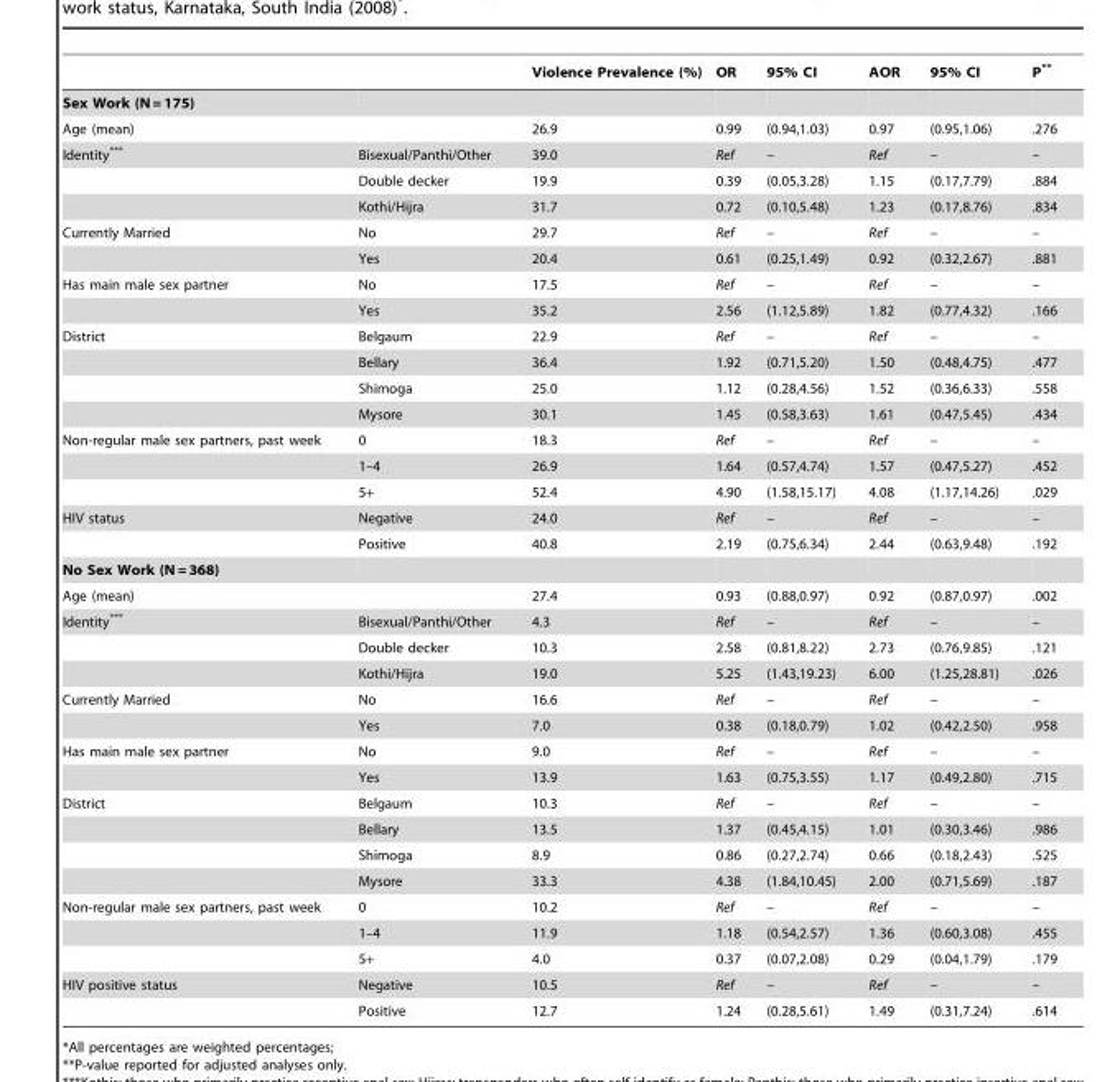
<table><thead><tr><td></td><td></td><td>Violence Prevalence (%)</td><td>OR</td><td>95% CI</td><td>AOR</td><td>95% CI</td><td>P**</td></tr></thead><tbody><tr><td colspan="8">Sex Work (N = 175)</td></tr><tr><td>Age (mean)</td><td></td><td>26.9</td><td>0.99</td><td>(0.94,1.03)</td><td>0.97</td><td>(0.95,1.06)</td><td>.276</td></tr><tr><td rowspan="3">Identity***</td><td>Bisexual/Panthi/Other</td><td>39.0</td><td>Ref</td><td>–</td><td>Ref</td><td>–</td><td>–</td></tr><tr><td>Double decker</td><td>19.9</td><td>0.39</td><td>(0.05,3.28)</td><td>1.15</td><td>(0.17,7.79)</td><td>.884</td></tr><tr><td>Kothi/Hijra</td><td>31.7</td><td>0.72</td><td>(0.10,5.48)</td><td>1.23</td><td>(0.17,8.76)</td><td>.834</td></tr><tr><td rowspan="2">Currently Married</td><td>No</td><td>29.7</td><td>Ref</td><td>–</td><td>Ref</td><td>–</td><td>–</td></tr><tr><td>Yes</td><td>20.4</td><td>0.61</td><td>(0.25,1.49)</td><td>0.92</td><td>(0.32,2.67)</td><td>.881</td></tr><tr><td rowspan="2">Has main male sex partner</td><td>No</td><td>17.5</td><td>Ref</td><td>–</td><td>Ref</td><td>–</td><td>–</td></tr><tr><td>Yes</td><td>35.2</td><td>2.56</td><td>(1.12,5.89)</td><td>1.82</td><td>(0.77,4.32)</td><td>.166</td></tr><tr><td rowspan="4">District</td><td>Belgaum</td><td>22.9</td><td>Ref</td><td>–</td><td>Ref</td><td>–</td><td>–</td></tr><tr><td>Bellary</td><td>36.4</td><td>1.92</td><td>(0.71,5.20)</td><td>1.50</td><td>(0.48,4.75)</td><td>.477</td></tr><tr><td>Shimoga</td><td>25.0</td><td>1.12</td><td>(0.28,4.56)</td><td>1.52</td><td>(0.36,6.33)</td><td>.558</td></tr><tr><td>Mysore</td><td>30.1</td><td>1.45</td><td>(0.58,3.63)</td><td>1.61</td><td>(0.47,5.45)</td><td>.434</td></tr><tr><td rowspan="3">Non-regular male sex partners, past week</td><td>0</td><td>18.3</td><td>Ref</td><td>–</td><td>Ref</td><td>–</td><td>–</td></tr><tr><td>1–4</td><td>26.9</td><td>1.64</td><td>(0.57,4.74)</td><td>1.57</td><td>(0.47,5.27)</td><td>.452</td></tr><tr><td>5+</td><td>52.4</td><td>4.90</td><td>(1.58,15.17)</td><td>4.08</td><td>(1.17,14.26)</td><td>.029</td></tr><tr><td rowspan="2">HIV status</td><td>Negative</td><td>24.0</td><td>Ref</td><td>–</td><td>Ref</td><td>–</td><td>–</td></tr><tr><td>Positive</td><td>40.8</td><td>2.19</td><td>(0.75,6.34)</td><td>2.44</td><td>(0.63,9.48)</td><td>.192</td></tr><tr><td colspan="8">No Sex Work (N = 368)</td></tr><tr><td>Age (mean)</td><td></td><td>27.4</td><td>0.93</td><td>(0.88,0.97)</td><td>0.92</td><td>(0.87,0.97)</td><td>.002</td></tr><tr><td rowspan="3">Identity***</td><td>Bisexual/Panthi/Other</td><td>4.3</td><td>Ref</td><td>–</td><td>Ref</td><td>–</td><td>–</td></tr><tr><td>Double decker</td><td>10.3</td><td>2.58</td><td>(0.81,8.22)</td><td>2.73</td><td>(0.76,9.85)</td><td>.121</td></tr><tr><td>Kothi/Hijra</td><td>19.0</td><td>5.25</td><td>(1.43,19.23)</td><td>6.00</td><td>(1.25,28.81)</td><td>.026</td></tr><tr><td rowspan="2">Currently Married</td><td>No</td><td>16.6</td><td>Ref</td><td>–</td><td>Ref</td><td>–</td><td>–</td></tr><tr><td>Yes</td><td>7.0</td><td>0.38</td><td>(0.18,0.79)</td><td>1.02</td><td>(0.42,2.50)</td><td>.958</td></tr><tr><td rowspan="2">Has main male sex partner</td><td>No</td><td>9.0</td><td>Ref</td><td>–</td><td>Ref</td><td>–</td><td>–</td></tr><tr><td>Yes</td><td>13.9</td><td>1.63</td><td>(0.75,3.55)</td><td>1.17</td><td>(0.49,2.80)</td><td>.715</td></tr><tr><td rowspan="4">District</td><td>Belgaum</td><td>10.3</td><td>Ref</td><td>–</td><td>Ref</td><td>–</td><td>–</td></tr><tr><td>Bellary</td><td>13.5</td><td>1.37</td><td>(0.45,4.15)</td><td>1.01</td><td>(0.30,3.46)</td><td>.986</td></tr><tr><td>Shimoga</td><td>8.9</td><td>0.86</td><td>(0.27,2.74)</td><td>0.66</td><td>(0.18,2.43)</td><td>.525</td></tr><tr><td>Mysore</td><td>33.3</td><td>4.38</td><td>(1.84,10.45)</td><td>2.00</td><td>(0.71,5.69)</td><td>.187</td></tr><tr><td rowspan="3">Non-regular male sex partners, past week</td><td>0</td><td>10.2</td><td>Ref</td><td>–</td><td>Ref</td><td>–</td><td>–</td></tr><tr><td>1–4</td><td>11.9</td><td>1.18</td><td>(0.54,2.57)</td><td>1.36</td><td>(0.60,3.08)</td><td>.455</td></tr><tr><td>5+</td><td>4.0</td><td>0.37</td><td>(0.07,2.08)</td><td>0.29</td><td>(0.04,1.79)</td><td>.179</td></tr><tr><td rowspan="2">HIV positive status</td><td>Negative</td><td>10.5</td><td>Ref</td><td>–</td><td>Ref</td><td>–</td><td>–</td></tr><tr><td>Positive</td><td>12.7</td><td>1.24</td><td>(0.28,5.61)</td><td>1.49</td><td>(0.31,7.24)</td><td>.614</td></tr></tbody></table>